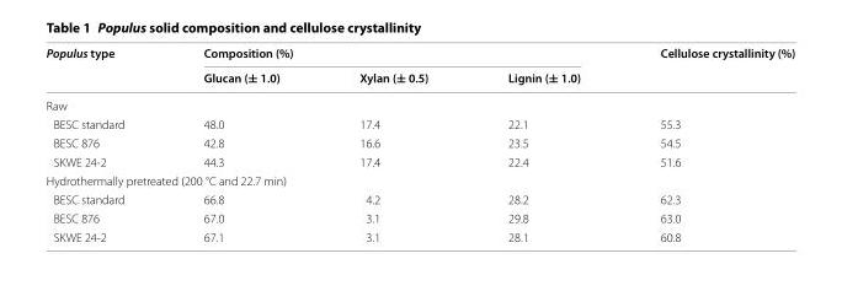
<table><thead><tr><td rowspan="2">Populus type</td><td colspan="3">Composition (%)</td><td rowspan="2">Cellulose crystallinity (%)</td></tr><tr><td>Glucan (± 1.0)</td><td>Xylan (± 0.5)</td><td>Lignin (± 1.0)</td></tr></thead><tbody><tr><td colspan="5">Raw</td></tr><tr><td>BESC standard</td><td>48.0</td><td>17.4</td><td>22.1</td><td>55.3</td></tr><tr><td>BESC 876</td><td>42.8</td><td>16.6</td><td>23.5</td><td>54.5</td></tr><tr><td>SKWE 24-2</td><td>44.3</td><td>17.4</td><td>22.4</td><td>51.6</td></tr><tr><td colspan="5">Hydrothermally pretreated (200 °C and 22.7 min)</td></tr><tr><td>BESC standard</td><td>66.8</td><td>4.2</td><td>28.2</td><td>62.3</td></tr><tr><td>BESC 876</td><td>67.0</td><td>3.1</td><td>29.8</td><td>63.0</td></tr><tr><td>SKWE 24-2</td><td>67.1</td><td>3.1</td><td>28.1</td><td>60.8</td></tr></tbody></table>